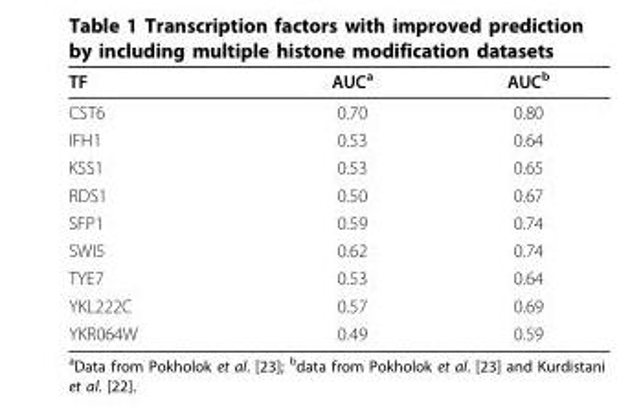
<table><thead><tr><td>TF</td><td>AUC<sup>a</sup></td><td>AUC<sup>b</sup></td></tr></thead><tbody><tr><td>CST6</td><td>0.70</td><td>0.80</td></tr><tr><td>IFH1</td><td>0.53</td><td>0.64</td></tr><tr><td>KSS1</td><td>0.53</td><td>0.65</td></tr><tr><td>RDS1</td><td>0.50</td><td>0.67</td></tr><tr><td>SFP1</td><td>0.59</td><td>0.74</td></tr><tr><td>SWI5</td><td>0.62</td><td>0.74</td></tr><tr><td>TYE7</td><td>0.53</td><td>0.64</td></tr><tr><td>YKL222C</td><td>0.57</td><td>0.69</td></tr><tr><td>YKR064W</td><td>0.49</td><td>0.59</td></tr></tbody></table>